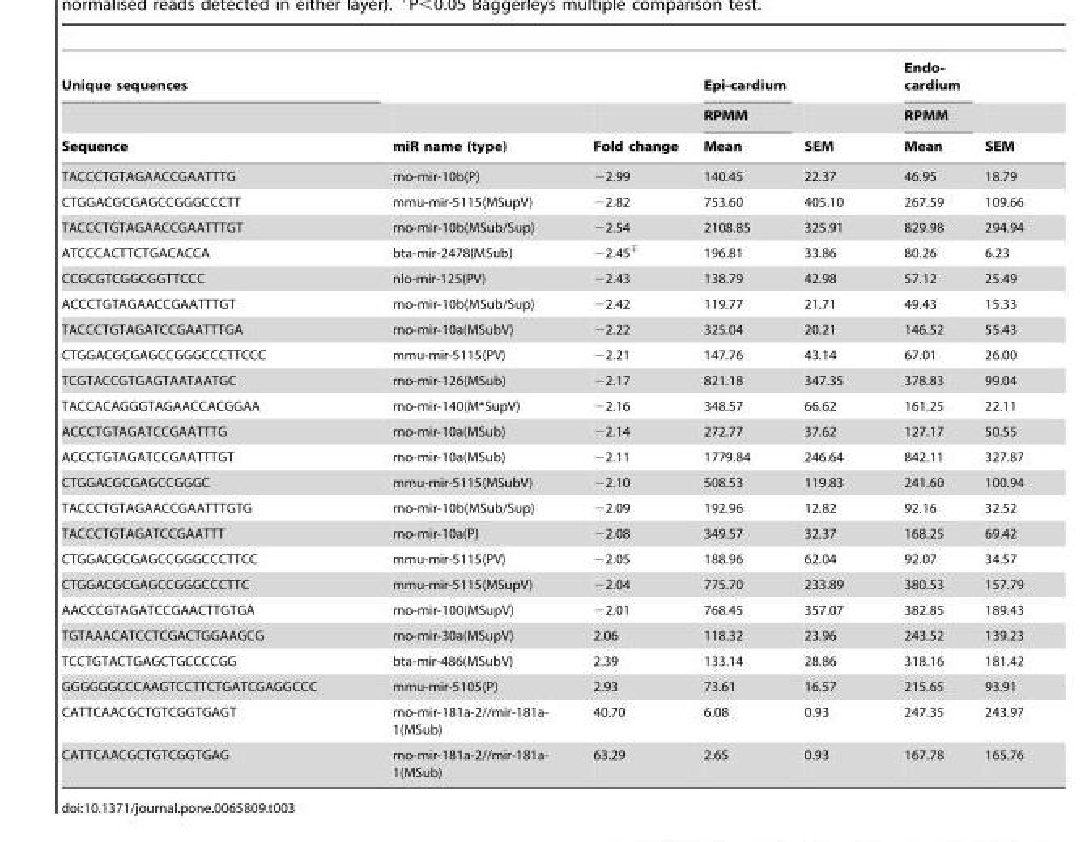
<table><thead><tr><td rowspan="3">Unique sequences Sequence</td><td rowspan="3">miR name (type)</td><td rowspan="3">Fold change</td><td rowspan="3">Epi-cardium RPMM Mean</td><td rowspan="3">SEM</td><td rowspan="3">Endo- cardium RPMM Mean</td><td rowspan="3">SEM</td></tr><tr></tr><tr></tr></thead><tbody><tr><td>TACCCTGTAGAACCGAATTTG</td><td>rno-mir-10b(P)</td><td>−2.99</td><td>140.45</td><td>22.37</td><td>46.95</td><td>18.79</td></tr><tr><td>CTGGACGCGAGCCGGGCCCTT</td><td>mmu-mir-5115(MSupV)</td><td>−2.82</td><td>753.60</td><td>405.10</td><td>267.59</td><td>109.66</td></tr><tr><td>TACCCTGTAGAACCGAATTTGT</td><td>rno-mir-10b(MSub/Sup)</td><td>−2.54</td><td>2108.85</td><td>325.91</td><td>829.98</td><td>294.94</td></tr><tr><td>ATCCCACTTCTGACACCA</td><td>bta-mir-2478(MSub)</td><td>22.45%</td><td>196.81</td><td>33.86</td><td>80.26</td><td>6.23</td></tr><tr><td>CCGCGTCGGCGGTTCCC</td><td>nlo-mir-125(PV)</td><td>−2.43</td><td>138.79</td><td>42.98</td><td>57.12</td><td>25.49</td></tr><tr><td>ACCCTGTAGAACCGAATTTGT</td><td>rno-mir-10b(MSub/Sup)</td><td>−2.42</td><td>119.77</td><td>21.71</td><td>49.43</td><td>15.33</td></tr><tr><td>TACCCTGTAGATCCGAATTTGA</td><td>rno-mir-10a(MSubV)</td><td>−2.22</td><td>325.04</td><td>20.21</td><td>146.52</td><td>55.43</td></tr><tr><td>CTGGACGCGAGCCGGGCCCTTCCC</td><td>mmu-mir-5115(PV)</td><td>−2.21</td><td>147.76</td><td>43.14</td><td>67.01</td><td>26.00</td></tr><tr><td>TCGTACCGTGAGTAATAATGC</td><td>rno-mir-126(MSub)</td><td>−2.17</td><td>821.18</td><td>347.35</td><td>378.83</td><td>99.04</td></tr><tr><td>TACCACAGGGTAGAACCACGGAA</td><td>rno-mir-140(M*SupV)</td><td>−2.16</td><td>348.57</td><td>66.62</td><td>161.25</td><td>22.11</td></tr><tr><td>ACCCTGTAGATCCGAATTTG</td><td>rno-mir-10a(MSub)</td><td>−2.14</td><td>272.77</td><td>37.62</td><td>127.17</td><td>50.55</td></tr><tr><td>ACCCTGTAGATCCGAATTTGT</td><td>rno-mir-10a(MSub)</td><td>−2.11</td><td>1779.84</td><td>246.64</td><td>842.11</td><td>327.87</td></tr><tr><td>CTGGACGCGAGCCGGGC</td><td>mmu-mir-5115(MSubV)</td><td>−2.10</td><td>508.53</td><td>119.83</td><td>241.60</td><td>100.94</td></tr><tr><td>TACCCTGTAGAACCGAATTTGTG</td><td>rno-mir-10b(MSub/Sup)</td><td>−2.09</td><td>192.96</td><td>12.82</td><td>92.16</td><td>32.52</td></tr><tr><td>TACCCTGTAGATCCGAATTT</td><td>rno-mir-10a(P)</td><td>−2.08</td><td>349.57</td><td>32.37</td><td>168.25</td><td>69.42</td></tr><tr><td>CTGGACGCGAGCCGGGCCCTTCC</td><td>mmu-mir-5115(PV)</td><td>−2.05</td><td>188.96</td><td>62.04</td><td>92.07</td><td>34.57</td></tr><tr><td>CTGGACGCGAGCCGGGCCCTTC</td><td>mmu-mir-5115(MSupV)</td><td>−2.04</td><td>775.70</td><td>233.89</td><td>380.53</td><td>157.79</td></tr><tr><td>AACCCGTAGATCCGAACTTGTGA</td><td>rno-mir-100(MSupV)</td><td>−2.01</td><td>768.45</td><td>357.07</td><td>382.85</td><td>189.43</td></tr><tr><td>TGTAAACATCCTCGACTGGAAGCG</td><td>rno-mir-30a(MSupV)</td><td>2.06</td><td>118.32</td><td>23.96</td><td>243.52</td><td>139.23</td></tr><tr><td>TCCTGTACTGAGCTGCCCCGG</td><td>bta-mir-486(MSubV)</td><td>2.39</td><td>133.14</td><td>28.86</td><td>318.16</td><td>181.42</td></tr><tr><td>GGGGGGCCCAAGTCCTTCTGATCGAGGCCC</td><td>mmu-mir-5105(P)</td><td>2.93</td><td>73.61</td><td>16.57</td><td>215.65</td><td>93.91</td></tr><tr><td>CATTCAACGCTGTCGGTGAGT</td><td>rno-mir-181a-2//mir-181a- 1(MSub)</td><td>40.70</td><td>6.08</td><td>0.93</td><td>247.35</td><td>243.97</td></tr><tr><td>CATTCAACGCTGTCGGTGAG</td><td>rno-mir-181a-2//mir-181a- 1(MSub)</td><td>63.29</td><td>2.65</td><td>0.93</td><td>167.78</td><td>165.76</td></tr></tbody></table>